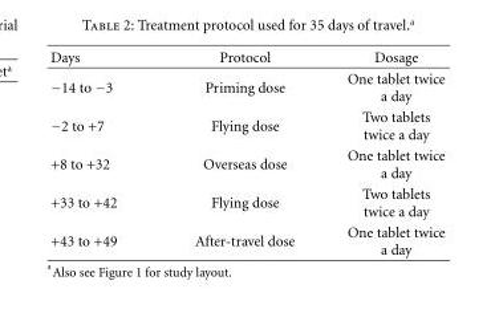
<table><thead><tr><td>Days</td><td>Protocol</td><td>Dosage</td></tr></thead><tbody><tr><td>−14 to −3</td><td>Priming dose</td><td>One tablet twice a day</td></tr><tr><td>−2 to +7</td><td>Flying dose</td><td>Two tablets twice a day</td></tr><tr><td>+8 to +32</td><td>Overseas dose</td><td>One tablet twice a day</td></tr><tr><td>+33 to +42</td><td>Flying dose</td><td>Two tablets twice a day</td></tr><tr><td>+43 to +49</td><td>After-travel dose</td><td>One tablet twice a day</td></tr></tbody></table>